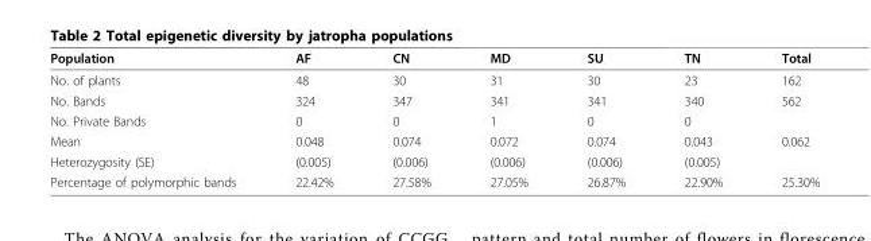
<table><thead><tr><td>Population</td><td>AF</td><td>CN</td><td>MD</td><td>SU</td><td>TN</td><td>Total</td></tr></thead><tbody><tr><td>No. of plants</td><td>48</td><td>30</td><td>31</td><td>30</td><td>23</td><td>162</td></tr><tr><td>No. Bands</td><td>324</td><td>347</td><td>341</td><td>341</td><td>340</td><td>562</td></tr><tr><td>No. Private Bands</td><td>0</td><td>0</td><td>1</td><td>0</td><td>0</td><td></td></tr><tr><td>Mean</td><td>0.048</td><td>0.074</td><td>0.072</td><td>0.074</td><td>0.043</td><td>0.062</td></tr><tr><td>Heterozygosity (SE)</td><td>(0.005)</td><td>(0.006)</td><td>(0.006)</td><td>(0.006)</td><td>(0.005)</td><td></td></tr><tr><td>Percentage of polymorphic bands</td><td>22.42%</td><td>27.58%</td><td>27.05%</td><td>26.87%</td><td>22.90%</td><td>25.30%</td></tr></tbody></table>